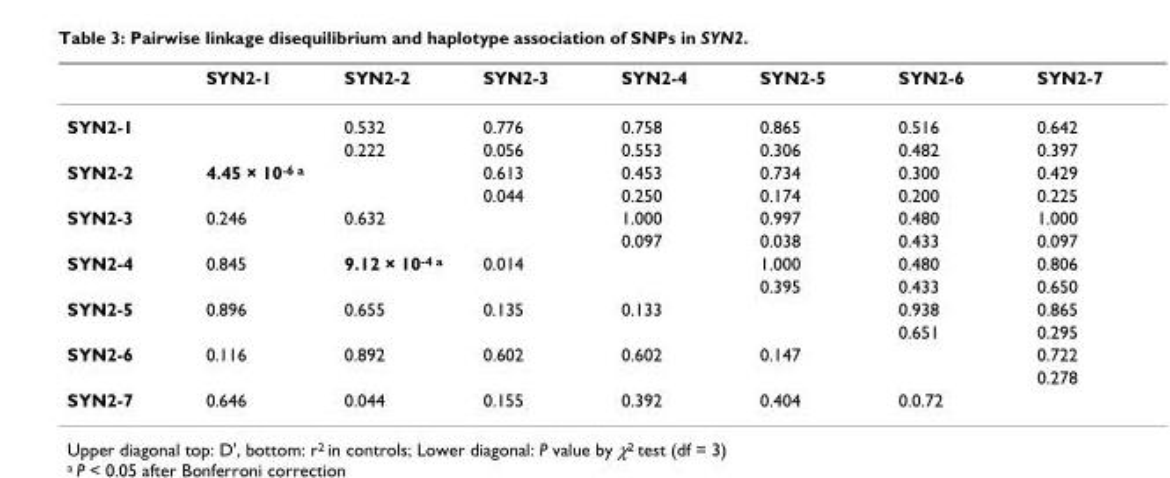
<table><thead><tr><td></td><td>SYN2-1</td><td>SYN2-2</td><td>SYN2-3</td><td>SYN2-4</td><td>SYN2-5</td><td>SYN2-6</td><td>SYN2-7</td></tr></thead><tbody><tr><td rowspan="2">SYN2-1</td><td></td><td>0.532</td><td>0.776</td><td>0.758</td><td>0.865</td><td>0.516</td><td>0.642</td></tr><tr><td></td><td>0.222</td><td>0.056</td><td>0.553</td><td>0.306</td><td>0.482</td><td>0.397</td></tr><tr><td rowspan="2">SYN2-2</td><td>4.45 × 10<sup>-6 a</sup></td><td></td><td>0.613</td><td>0.453</td><td>0.734</td><td>0.300</td><td>0.429</td></tr><tr><td></td><td></td><td>0.044</td><td>0.250</td><td>0.174</td><td>0.200</td><td>0.225</td></tr><tr><td rowspan="2">SYN2-3</td><td>0.246</td><td>0.632</td><td></td><td>1.000</td><td>0.997</td><td>0.480</td><td>1.000</td></tr><tr><td></td><td></td><td></td><td>0.097</td><td>0.038</td><td>0.433</td><td>0.097</td></tr><tr><td rowspan="2">SYN2-4</td><td>0.845</td><td>9.12 × 10<sup>-4 a</sup></td><td>0.014</td><td></td><td>1.000</td><td>0.480</td><td>0.806</td></tr><tr><td></td><td></td><td></td><td></td><td>0.395</td><td>0.433</td><td>0.650</td></tr><tr><td rowspan="2">SYN2-5</td><td>0.896</td><td>0.655</td><td>0.135</td><td>0.133</td><td></td><td>0.938</td><td>0.865</td></tr><tr><td></td><td></td><td></td><td></td><td></td><td>0.651</td><td>0.295</td></tr><tr><td rowspan="2">SYN2-6</td><td>0.116</td><td>0.892</td><td>0.602</td><td>0.602</td><td>0.147</td><td></td><td>0.722</td></tr><tr><td></td><td></td><td></td><td></td><td></td><td></td><td>0.278</td></tr><tr><td>SYN2-7</td><td>0.646</td><td>0.044</td><td>0.155</td><td>0.392</td><td>0.404</td><td>0.0.72</td><td></td></tr></tbody></table>